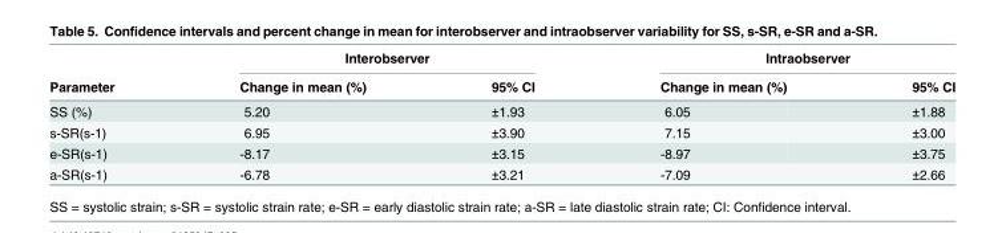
<table><thead><tr><td rowspan="2">Parameter</td><td colspan="2">Interobserver</td><td colspan="2">Intraobserver</td></tr><tr><td>Change in mean (%)</td><td>95% CI</td><td>Change in mean (%)</td><td>95% CI</td></tr></thead><tbody><tr><td>SS (%)</td><td>5.20</td><td>±1.93</td><td>6.05</td><td>±1.88</td></tr><tr><td>s-SR(s-1)</td><td>6.95</td><td>±3.90</td><td>7.15</td><td>±3.00</td></tr><tr><td>e-SR(s-1)</td><td>-8.17</td><td>±3.15</td><td>-8.97</td><td>±3.75</td></tr><tr><td>a-SR(s-1)</td><td>-6.78</td><td>±3.21</td><td>-7.09</td><td>±2.66</td></tr></tbody></table>